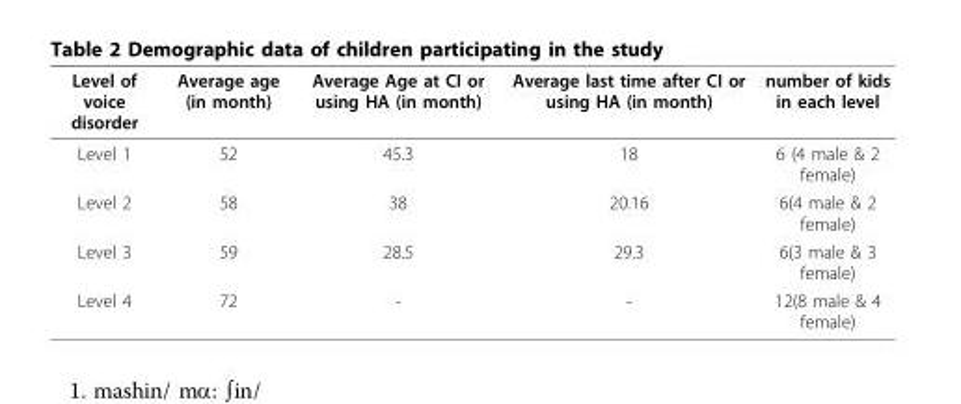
<table><thead><tr><td>Level of voice disorder</td><td>Average age (in month)</td><td>Average Age at CI or using HA (in month)</td><td>Average last time after CI or using HA (in month)</td><td>number of kids in each level</td></tr></thead><tbody><tr><td>Level 1</td><td>52</td><td>45.3</td><td>18</td><td>6 (4 male &amp; 2 female)</td></tr><tr><td>Level 2</td><td>58</td><td>38</td><td>20.16</td><td>6(4 male &amp; 2 female)</td></tr><tr><td>Level 3</td><td>59</td><td>28.5</td><td>29.3</td><td>6(3 male &amp; 3 female)</td></tr><tr><td>Level 4</td><td>72</td><td>-</td><td>-</td><td>12(8 male &amp; 4 female)</td></tr></tbody></table>